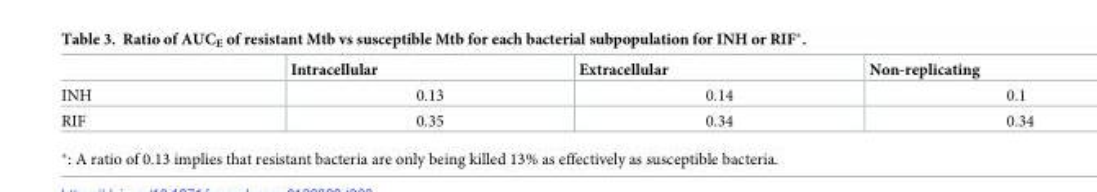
<table><thead><tr><td></td><td>Intracellular</td><td>Extracellular</td><td>Non-replicating</td></tr></thead><tbody><tr><td>INH</td><td>0.13</td><td>0.14</td><td>0.1</td></tr><tr><td>RIF</td><td>0.35</td><td>0.34</td><td>0.34</td></tr></tbody></table>